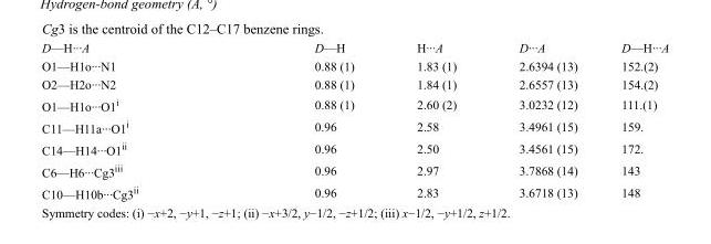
<table><tbody><tr><td>D—H···A</td><td>D—H</td><td>H···A</td><td>D···A</td><td>D—H···A</td></tr><tr><td>O1—H1o···N1</td><td>0.88 (1)</td><td>1.83 (1)</td><td>2.6394 (13)</td><td>152.(2)</td></tr><tr><td>O2—H2o···N2</td><td>0.88 (1)</td><td>1.84 (1)</td><td>2.6557 (13)</td><td>154.(2)</td></tr><tr><td>O1—H1o···O1<sup>i</sup></td><td>0.88 (1)</td><td>2.60 (2)</td><td>3.0232 (12)</td><td>111.(1)</td></tr><tr><td>C11—H11a···O1<sup>i</sup></td><td>0.96</td><td>2.58</td><td>3.4961 (15)</td><td>159.</td></tr><tr><td>C14—H14···O1<sup>ii</sup></td><td>0.96</td><td>2.50</td><td>3.4561 (15)</td><td>172.</td></tr><tr><td>C6—H6···Cg3<sup>iii</sup></td><td>0.96</td><td>2.97</td><td>3.7868 (14)</td><td>143</td></tr><tr><td>C10—H10b···Cg3<sup>ii</sup></td><td>0.96</td><td>2.83</td><td>3.6718 (13)</td><td>148</td></tr></tbody></table>